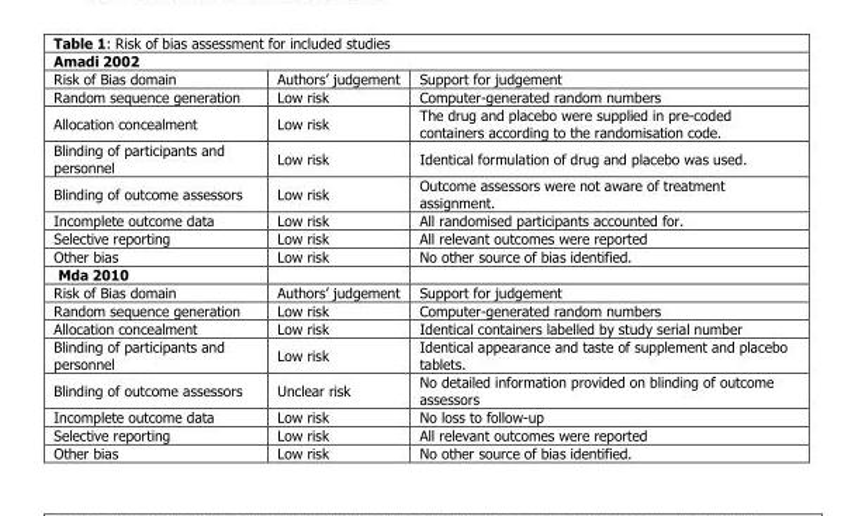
<table><thead><tr><td colspan="3">Amadi 2002</td></tr><tr><td>Risk of Bias domain</td><td>Authors’ judgement</td><td>Support for judgement</td></tr></thead><tbody><tr><td>Random sequence generation</td><td>Low risk</td><td>Computer-generated random numbers</td></tr><tr><td>Allocation concealment</td><td>Low risk</td><td>The drug and placebo were supplied in pre-coded containers according to the randomisation code.</td></tr><tr><td>Blinding of participants and personnel</td><td>Low risk</td><td>Identical formulation of drug and placebo was used.</td></tr><tr><td>Blinding of outcome assessors</td><td>Low risk</td><td>Outcome assessors were not aware of treatment assignment.</td></tr><tr><td>Incomplete outcome data</td><td>Low risk</td><td>All randomised participants accounted for.</td></tr><tr><td>Selective reporting</td><td>Low risk</td><td>All relevant outcomes were reported</td></tr><tr><td>Other bias</td><td>Low risk</td><td>No other source of bias identified.</td></tr><tr><td colspan="3">Mda 2010</td></tr><tr><td>Risk of Bias domain</td><td>Authors’ judgement</td><td>Support for judgement</td></tr><tr><td>Random sequence generation</td><td>Low risk</td><td>Computer-generated random numbers</td></tr><tr><td>Allocation concealment</td><td>Low risk</td><td>Identical containers labelled by study serial number</td></tr><tr><td>Blinding of participants and personnel</td><td>Low risk</td><td>Identical appearance and taste of supplement and placebo tablets.</td></tr><tr><td>Blinding of outcome assessors</td><td>Unclear risk</td><td>No detailed information provided on blinding of outcome assessors</td></tr><tr><td>Incomplete outcome data</td><td>Low risk</td><td>No loss to follow-up</td></tr><tr><td>Selective reporting</td><td>Low risk</td><td>All relevant outcomes were reported</td></tr><tr><td>Other bias</td><td>Low risk</td><td>No other source of bias identified.</td></tr></tbody></table>